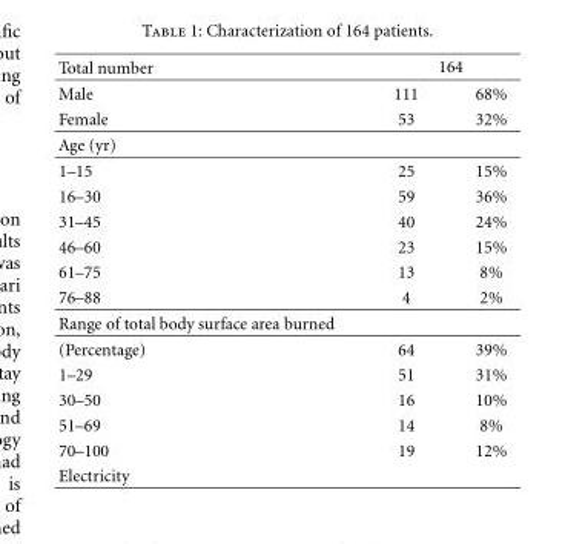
<table><thead><tr><td rowspan="2">Total number Male</td><td colspan="2">164</td></tr><tr><td>111</td><td>68%</td></tr></thead><tbody><tr><td>Female</td><td>53</td><td>32%</td></tr><tr><td colspan="3">Age (yr)</td></tr><tr><td>1–15</td><td>25</td><td>15%</td></tr><tr><td>16–30</td><td>59</td><td>36%</td></tr><tr><td>31–45</td><td>40</td><td>24%</td></tr><tr><td>46–60</td><td>23</td><td>15%</td></tr><tr><td>61–75</td><td>13</td><td>8%</td></tr><tr><td>76–88</td><td>4</td><td>2%</td></tr><tr><td colspan="3">Range of total body surface area burned</td></tr><tr><td>(Percentage)</td><td>64</td><td>39%</td></tr><tr><td>1–29</td><td>51</td><td>31%</td></tr><tr><td>30–50</td><td>16</td><td>10%</td></tr><tr><td>51–69</td><td>14</td><td>8%</td></tr><tr><td>70–100</td><td>19</td><td>12%</td></tr><tr><td>Electricity</td><td></td><td></td></tr></tbody></table>